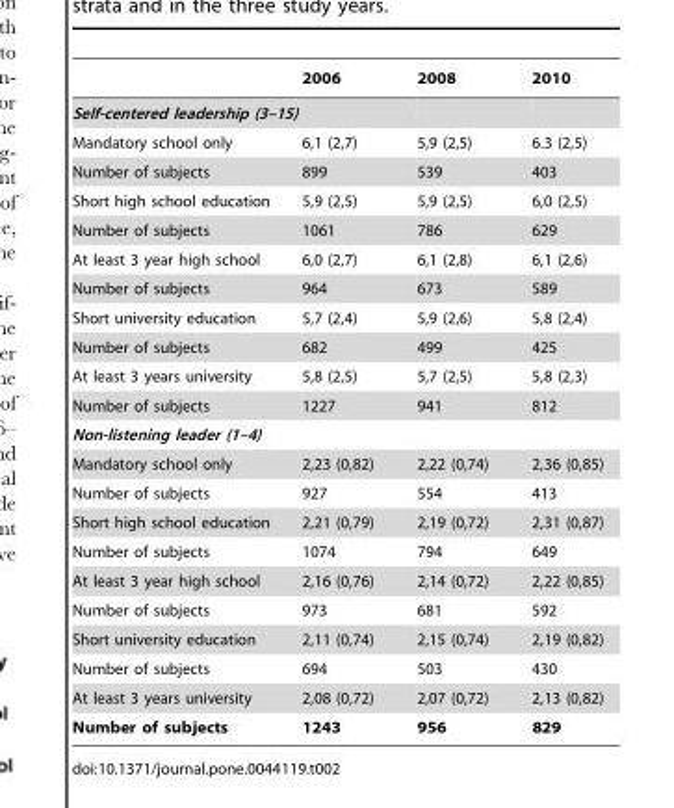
<table><thead><tr><td></td><td>2006</td><td>2008</td><td>2010</td></tr></thead><tbody><tr><td colspan="4">Self-centered leadership (3–15)</td></tr><tr><td>Mandatory school only</td><td>6,1 (2,7)</td><td>5,9 (2,5)</td><td>6.3 (2,5)</td></tr><tr><td>Number of subjects</td><td>899</td><td>539</td><td>403</td></tr><tr><td>Short high school education</td><td>5,9 (2,5)</td><td>5,9 (2,5)</td><td>6,0 (2,5)</td></tr><tr><td>Number of subjects</td><td>1061</td><td>786</td><td>629</td></tr><tr><td>At least 3 year high school</td><td>6,0 (2,7)</td><td>6,1 (2,8)</td><td>6,1 (2,6)</td></tr><tr><td>Number of subjects</td><td>964</td><td>673</td><td>589</td></tr><tr><td>Short university education</td><td>5,7 (2,4)</td><td>5,9 (2,6)</td><td>5,8 (2,4)</td></tr><tr><td>Number of subjects</td><td>682</td><td>499</td><td>425</td></tr><tr><td>At least 3 years university</td><td>5,8 (2,5)</td><td>5,7 (2,5)</td><td>5,8 (2,3)</td></tr><tr><td>Number of subjects</td><td>1227</td><td>941</td><td>812</td></tr><tr><td colspan="4">Non-listening leader (1–4)</td></tr><tr><td>Mandatory school only</td><td>2,23 (0,82)</td><td>2,22 (0,74)</td><td>2,36 (0,85)</td></tr><tr><td>Number of subjects</td><td>927</td><td>554</td><td>413</td></tr><tr><td>Short high school education</td><td>2,21 (0,79)</td><td>2,19 (0,72)</td><td>2,31 (0,87)</td></tr><tr><td>Number of subjects</td><td>1074</td><td>794</td><td>649</td></tr><tr><td>At least 3 year high school</td><td>2,16 (0,76)</td><td>2,14 (0,72)</td><td>2,22 (0,85)</td></tr><tr><td>Number of subjects</td><td>973</td><td>681</td><td>592</td></tr><tr><td>Short university education</td><td>2,11 (0,74)</td><td>2,15 (0,74)</td><td>2,19 (0,82)</td></tr><tr><td>Number of subjects</td><td>694</td><td>503</td><td>430</td></tr><tr><td>At least 3 years university</td><td>2,08 (0,72)</td><td>2,07 (0,72)</td><td>2,13 (0,82)</td></tr><tr><td>Number of subjects</td><td>1243</td><td>956</td><td>829</td></tr></tbody></table>